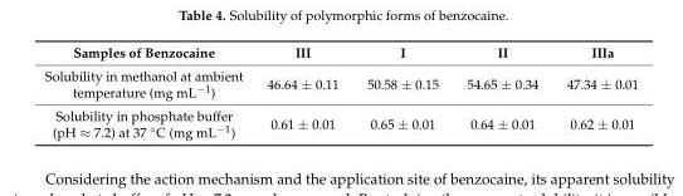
<table><thead><tr><td>Samples of Benzocaine</td><td>III</td><td>I</td><td>II</td><td>IIIa</td></tr></thead><tbody><tr><td>Solubility in methanol at ambient temperature (mg mL<sup>−1</sup>)</td><td>46.64 ± 0.11</td><td>50.58 ± 0.15</td><td>54.65 ± 0.34</td><td>47.34 ± 0.01</td></tr><tr><td>Solubility in phosphate buffer (pH ≈ 7.2) at 37 ◦C (mg mL−1)</td><td>0.61 ± 0.01</td><td>0.65 ± 0.01</td><td>0.64 ± 0.01</td><td>0.62 ± 0.01</td></tr></tbody></table>